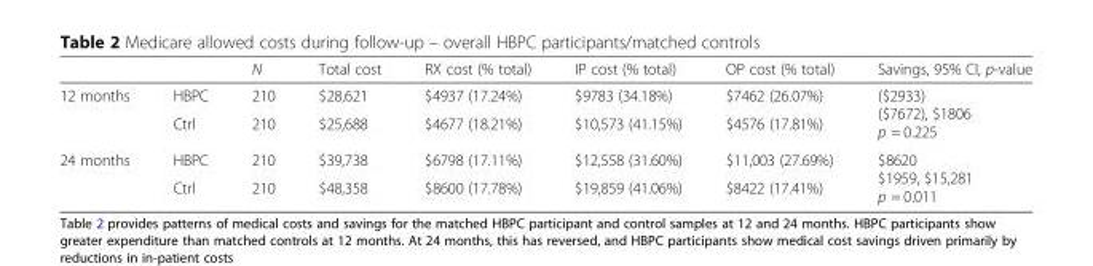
<table><thead><tr><td></td><td></td><td>N</td><td>Total cost</td><td>RX cost (% total)</td><td>IP cost (% total)</td><td>OP cost (% total)</td><td>Savings, 95% CI, p-value</td></tr></thead><tbody><tr><td rowspan="2">12 months</td><td>HBPC</td><td>210</td><td>$28,621</td><td>$4937 (17.24%)</td><td>$9783 (34.18%)</td><td>$7462 (26.07%)</td><td rowspan="2">($2933) ($7672), $1806 p = 0.225</td></tr><tr><td>Ctrl</td><td>210</td><td>$25,688</td><td>$4677 (18.21%)</td><td>$10,573 (41.15%)</td><td>$4576 (17.81%)</td></tr><tr><td rowspan="2">24 months</td><td>HBPC</td><td>210</td><td>$39,738</td><td>$6798 (17.11%)</td><td>$12,558 (31.60%)</td><td>$11,003 (27.69%)</td><td rowspan="2">$8620 $1959, $15,281 p = 0.011</td></tr><tr><td>Ctrl</td><td>210</td><td>$48,358</td><td>$8600 (17.78%)</td><td>$19,859 (41.06%)</td><td>$8422 (17.41%)</td></tr></tbody></table>